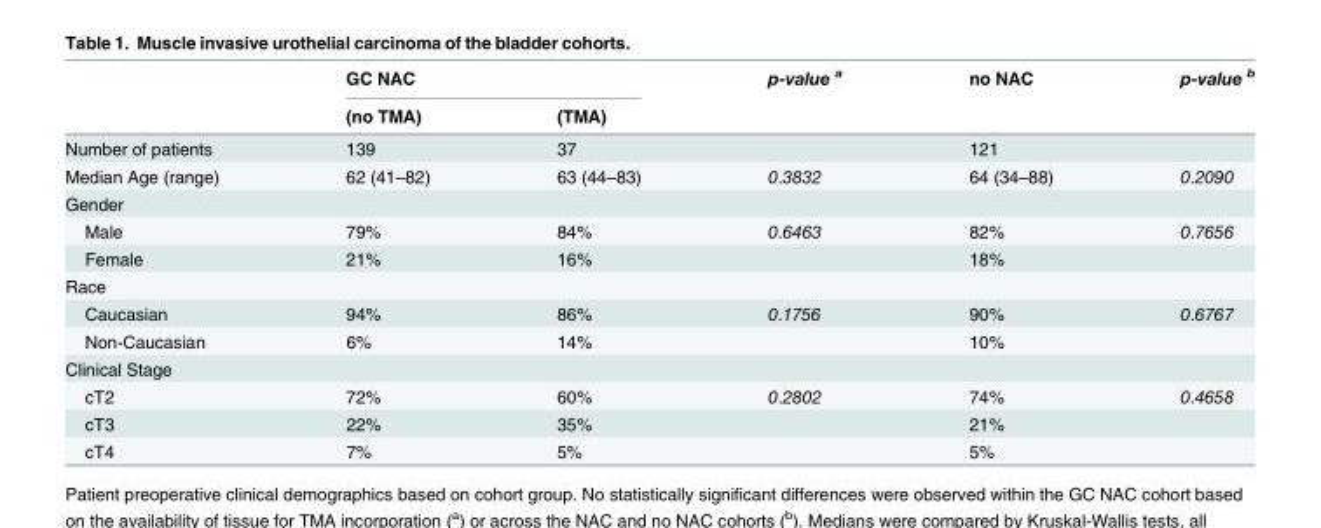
<table><thead><tr><td rowspan="2"></td><td colspan="2">GC NAC</td><td rowspan="2">p-value <sup>a</sup></td><td rowspan="2">no NAC</td><td rowspan="2">p-value <sup>b</sup></td></tr><tr><td>(no TMA)</td><td>(TMA)</td></tr></thead><tbody><tr><td>Number of patients</td><td>139</td><td>37</td><td></td><td>121</td><td></td></tr><tr><td>Median Age (range)</td><td>62 (41–82)</td><td>63 (44–83)</td><td>0.3832</td><td>64 (34–88)</td><td>0.2090</td></tr><tr><td colspan="6">Gender</td></tr><tr><td>Male</td><td>79%</td><td>84%</td><td>0.6463</td><td>82%</td><td>0.7656</td></tr><tr><td>Female</td><td>21%</td><td>16%</td><td></td><td>18%</td><td></td></tr><tr><td colspan="6">Race</td></tr><tr><td>Caucasian</td><td>94%</td><td>86%</td><td>0.1756</td><td>90%</td><td>0.6767</td></tr><tr><td>Non-Caucasian</td><td>6%</td><td>14%</td><td></td><td>10%</td><td></td></tr><tr><td colspan="6">Clinical Stage</td></tr><tr><td>cT2</td><td>72%</td><td>60%</td><td>0.2802</td><td>74%</td><td>0.4658</td></tr><tr><td>cT3</td><td>22%</td><td>35%</td><td></td><td>21%</td><td></td></tr><tr><td>cT4</td><td>7%</td><td>5%</td><td></td><td>5%</td><td></td></tr></tbody></table>